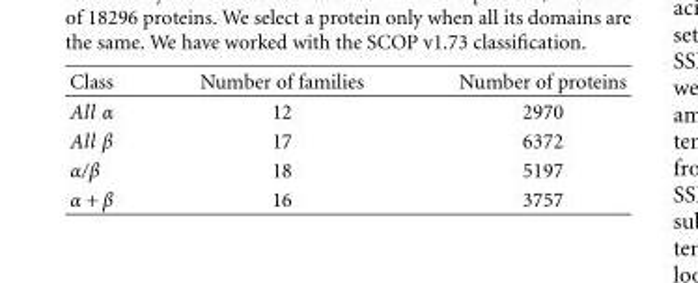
<table><thead><tr><td>Class</td><td>Number of families</td><td>Number of proteins</td></tr></thead><tbody><tr><td>All α</td><td>12</td><td>2970</td></tr><tr><td>All β</td><td>17</td><td>6372</td></tr><tr><td>α/β</td><td>18</td><td>5197</td></tr><tr><td>α + β</td><td>16</td><td>3757</td></tr></tbody></table>